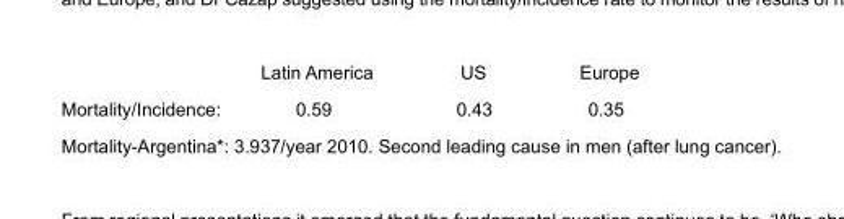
<table><thead><tr><td></td><td>Latin America</td><td>US</td><td>Europe</td></tr></thead><tbody><tr><td>Mortality/Incidence:</td><td>0.59</td><td>0.43</td><td>0.35</td></tr><tr><td>Mortality-Argentina*:</td><td colspan="3">3.937/year 2010. Second leading cause in men (after lung cancer).</td></tr></tbody></table>